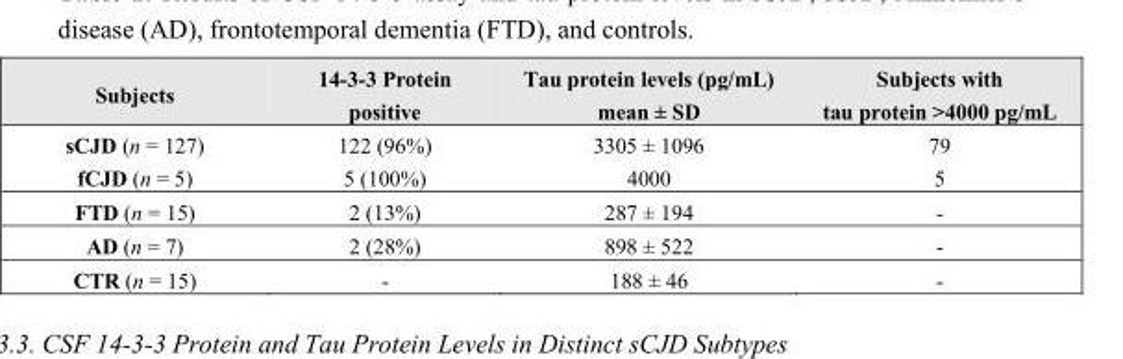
<table><thead><tr><td>Subjects</td><td>14-3-3 Protein positive</td><td>Tau protein levels (pg/mL) mean ± SD</td><td>Subjects with tau protein &gt;4000 pg/mL</td></tr></thead><tbody><tr><td>sCJD (n = 127)</td><td>122 (96%)</td><td>3305 ± 1096</td><td>79</td></tr><tr><td>fCJD (n = 5)</td><td>5 (100%)</td><td>4000</td><td>5</td></tr><tr><td>FTD (n = 15)</td><td>2 (13%)</td><td>287 ± 194</td><td>-</td></tr><tr><td>AD (n = 7)</td><td>2 (28%)</td><td>898 ± 522</td><td>-</td></tr><tr><td>CTR (n = 15)</td><td>-</td><td>188 ± 46</td><td>-</td></tr></tbody></table>